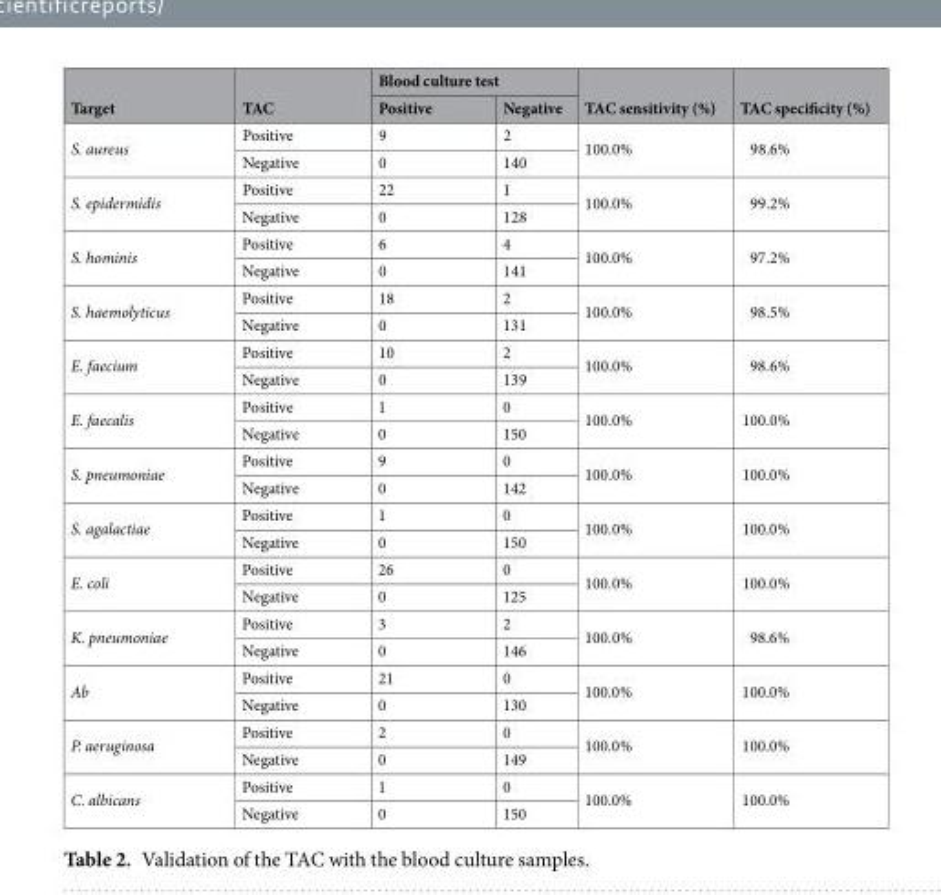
<table><thead><tr><td rowspan="2">Target</td><td rowspan="2">TAC</td><td colspan="2">Blood culture test</td><td rowspan="2">TAC sensitivity (%)</td><td rowspan="2">TAC specificity (%)</td></tr><tr><td>Positive</td><td>Negative</td></tr></thead><tbody><tr><td rowspan="2">S. aureus</td><td>Positive</td><td>9</td><td>2</td><td rowspan="2">100.0%</td><td rowspan="2">98.6%</td></tr><tr><td>Negative</td><td>0</td><td>140</td></tr><tr><td rowspan="2">S. epidermidis</td><td>Positive</td><td>22</td><td>1</td><td rowspan="2">100.0%</td><td rowspan="2">99.2%</td></tr><tr><td>Negative</td><td>0</td><td>128</td></tr><tr><td rowspan="2">S. hominis</td><td>Positive</td><td>6</td><td>4</td><td rowspan="2">100.0%</td><td rowspan="2">97.2%</td></tr><tr><td>Negative</td><td>0</td><td>141</td></tr><tr><td rowspan="2">S. haemolyticus</td><td>Positive</td><td>18</td><td>2</td><td rowspan="2">100.0%</td><td rowspan="2">98.5%</td></tr><tr><td>Negative</td><td>0</td><td>131</td></tr><tr><td rowspan="2">E. faecium</td><td>Positive</td><td>10</td><td>2</td><td rowspan="2">100.0%</td><td rowspan="2">98.6%</td></tr><tr><td>Negative</td><td>0</td><td>139</td></tr><tr><td rowspan="2">E. faecalis</td><td>Positive</td><td>1</td><td>0</td><td rowspan="2">100.0%</td><td rowspan="2">100.0%</td></tr><tr><td>Negative</td><td>0</td><td>150</td></tr><tr><td rowspan="2">S. pneumoniae</td><td>Positive</td><td>9</td><td>0</td><td rowspan="2">100.0%</td><td rowspan="2">100.0%</td></tr><tr><td>Negative</td><td>0</td><td>142</td></tr><tr><td rowspan="2">S. agalactiae</td><td>Positive</td><td>1</td><td>0</td><td rowspan="2">100.0%</td><td rowspan="2">100.0%</td></tr><tr><td>Negative</td><td>0</td><td>150</td></tr><tr><td rowspan="2">E. coli</td><td>Positive</td><td>26</td><td>0</td><td rowspan="2">100.0%</td><td rowspan="2">100.0%</td></tr><tr><td>Negative</td><td>0</td><td>125</td></tr><tr><td rowspan="2">K. pneumoniae</td><td>Positive</td><td>3</td><td>2</td><td rowspan="2">100.0%</td><td rowspan="2">98.6%</td></tr><tr><td>Negative</td><td>0</td><td>146</td></tr><tr><td rowspan="2">Ab</td><td>Positive</td><td>21</td><td>0</td><td rowspan="2">100.0%</td><td rowspan="2">100.0%</td></tr><tr><td>Negative</td><td>0</td><td>130</td></tr><tr><td rowspan="2">P. aeruginosa</td><td>Positive</td><td>2</td><td>0</td><td rowspan="2">100.0%</td><td rowspan="2">100.0%</td></tr><tr><td>Negative</td><td>0</td><td>149</td></tr><tr><td rowspan="2">C. albicans</td><td>Positive</td><td>1</td><td>0</td><td rowspan="2">100.0%</td><td rowspan="2">100.0%</td></tr><tr><td>Negative</td><td>0</td><td>150</td></tr></tbody></table>